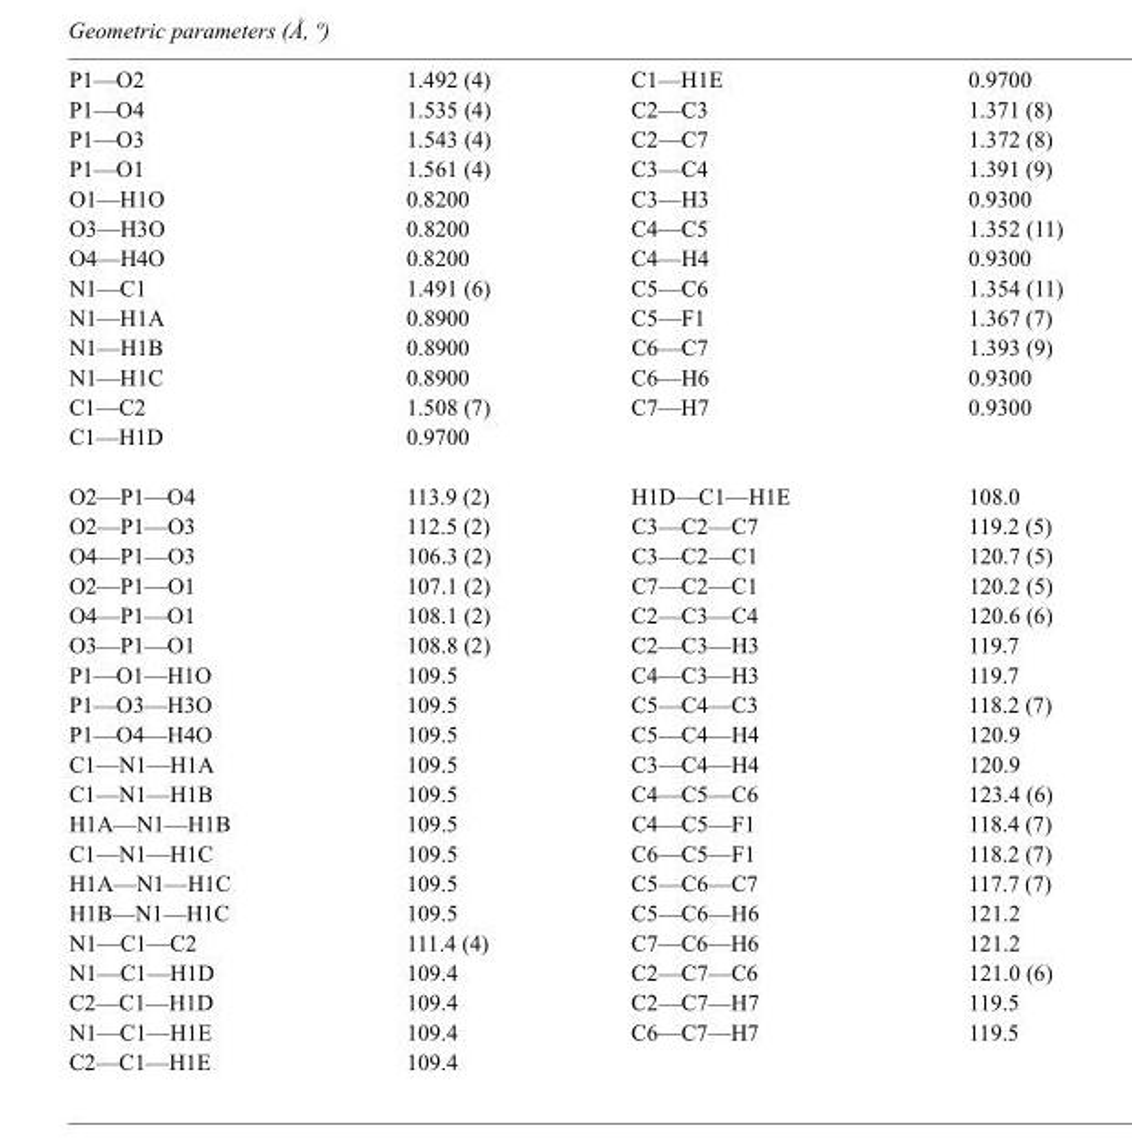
<table><tbody><tr><td>P1—O2</td><td>1.492 (4)</td><td>C1—H1E</td><td>0.9700</td></tr><tr><td>P1—O4</td><td>1.535 (4)</td><td>C2—C3</td><td>1.371 (8)</td></tr><tr><td>P1—O3</td><td>1.543 (4)</td><td>C2—C7</td><td>1.372 (8)</td></tr><tr><td>P1—O1</td><td>1.561 (4)</td><td>C3—C4</td><td>1.391 (9)</td></tr><tr><td>O1—H1O</td><td>0.8200</td><td>C3—H3</td><td>0.9300</td></tr><tr><td>O3—H3O</td><td>0.8200</td><td>C4—C5</td><td>1.352 (11)</td></tr><tr><td>O4—H4O</td><td>0.8200</td><td>C4—H4</td><td>0.9300</td></tr><tr><td>N1—C1</td><td>1.491 (6)</td><td>C5—C6</td><td>1.354 (11)</td></tr><tr><td>N1—H1A</td><td>0.8900</td><td>C5—F1</td><td>1.367 (7)</td></tr><tr><td>N1—H1B</td><td>0.8900</td><td>C6—C7</td><td>1.393 (9)</td></tr><tr><td>N1—H1C</td><td>0.8900</td><td>C6—H6</td><td>0.9300</td></tr><tr><td>C1—C2</td><td>1.508 (7)</td><td>C7—H7</td><td>0.9300</td></tr><tr><td>C1—H1D</td><td>0.9700</td><td></td><td></td></tr><tr><td>O2—P1—O4</td><td>113.9 (2)</td><td>H1D—C1—H1E</td><td>108.0</td></tr><tr><td>O2—P1—O3</td><td>112.5 (2)</td><td>C3—C2—C7</td><td>119.2 (5)</td></tr><tr><td>O4—P1—O3</td><td>106.3 (2)</td><td>C3—C2—C1</td><td>120.7 (5)</td></tr><tr><td>O2—P1—O1</td><td>107.1 (2)</td><td>C7—C2—C1</td><td>120.2 (5)</td></tr><tr><td>O4—P1—O1</td><td>108.1 (2)</td><td>C2—C3—C4</td><td>120.6 (6)</td></tr><tr><td>O3—P1—O1</td><td>108.8 (2)</td><td>C2—C3—H3</td><td>119.7</td></tr><tr><td>P1—O1—H1O</td><td>109.5</td><td>C4—C3—H3</td><td>119.7</td></tr><tr><td>P1—O3—H3O</td><td>109.5</td><td>C5—C4—C3</td><td>118.2 (7)</td></tr><tr><td>P1—O4—H4O</td><td>109.5</td><td>C5—C4—H4</td><td>120.9</td></tr><tr><td>C1—N1—H1A</td><td>109.5</td><td>C3—C4—H4</td><td>120.9</td></tr><tr><td>C1—N1—H1B</td><td>109.5</td><td>C4—C5—C6</td><td>123.4 (6)</td></tr><tr><td>H1A—N1—H1B</td><td>109.5</td><td>C4—C5—F1</td><td>118.4 (7)</td></tr><tr><td>C1—N1—H1C</td><td>109.5</td><td>C6—C5—F1</td><td>118.2 (7)</td></tr><tr><td>H1A—N1—H1C</td><td>109.5</td><td>C5—C6—C7</td><td>117.7 (7)</td></tr><tr><td>H1B—N1—H1C</td><td>109.5</td><td>C5—C6—H6</td><td>121.2</td></tr><tr><td>N1—C1—C2</td><td>111.4 (4)</td><td>C7—C6—H6</td><td>121.2</td></tr><tr><td>N1—C1—H1D</td><td>109.4</td><td>C2—C7—C6</td><td>121.0 (6)</td></tr><tr><td>C2—C1—H1D</td><td>109.4</td><td>C2—C7—H7</td><td>119.5</td></tr><tr><td>N1—C1—H1E</td><td>109.4</td><td>C6—C7—H7</td><td>119.5</td></tr><tr><td>C2—C1—H1E</td><td>109.4</td><td></td><td></td></tr></tbody></table>